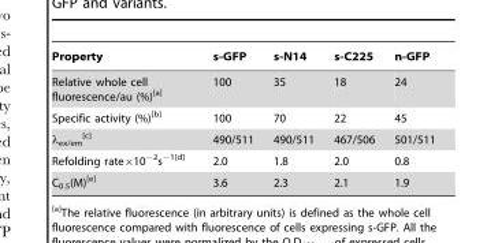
<table><thead><tr><td>Property</td><td>s-GFP</td><td>s-N14</td><td>s-C225</td><td>n-GFP</td></tr></thead><tbody><tr><td>Relative whole cell fluorescence/au (%)[a]</td><td>100</td><td>35</td><td>18</td><td>24</td></tr><tr><td>Specific activity (%)[b]</td><td>100</td><td>70</td><td>22</td><td>45</td></tr><tr><td>λ<sub>ex/em</sub> [c]</td><td>490/511</td><td>490/511</td><td>467/506</td><td>501/511</td></tr><tr><td>Refolding rate×10<sup>−2</sup>s<sup>−1[d]</sup></td><td>2.0</td><td>1.8</td><td>2.0</td><td>0.8</td></tr><tr><td>C<sub>0.5</sub>(M)[e]</td><td>3.6</td><td>2.3</td><td>2.1</td><td>1.9</td></tr></tbody></table>